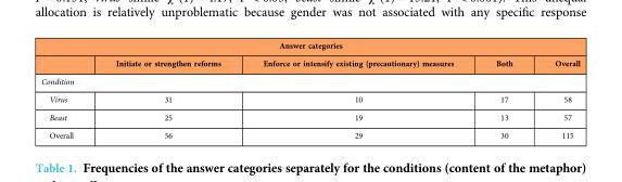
<table><thead><tr><td colspan="5">Answer categories</td></tr><tr><td></td><td>Initiate or strengthen reforms</td><td>Enforce or intensify existing (precautionary) measures</td><td>Both</td><td>Overall</td></tr></thead><tbody><tr><td colspan="5">Condition</td></tr><tr><td>Virus</td><td>31</td><td>10</td><td>17</td><td>58</td></tr><tr><td>Beast</td><td>25</td><td>19</td><td>13</td><td>57</td></tr><tr><td>Overall</td><td>56</td><td>29</td><td>30</td><td>115</td></tr></tbody></table>